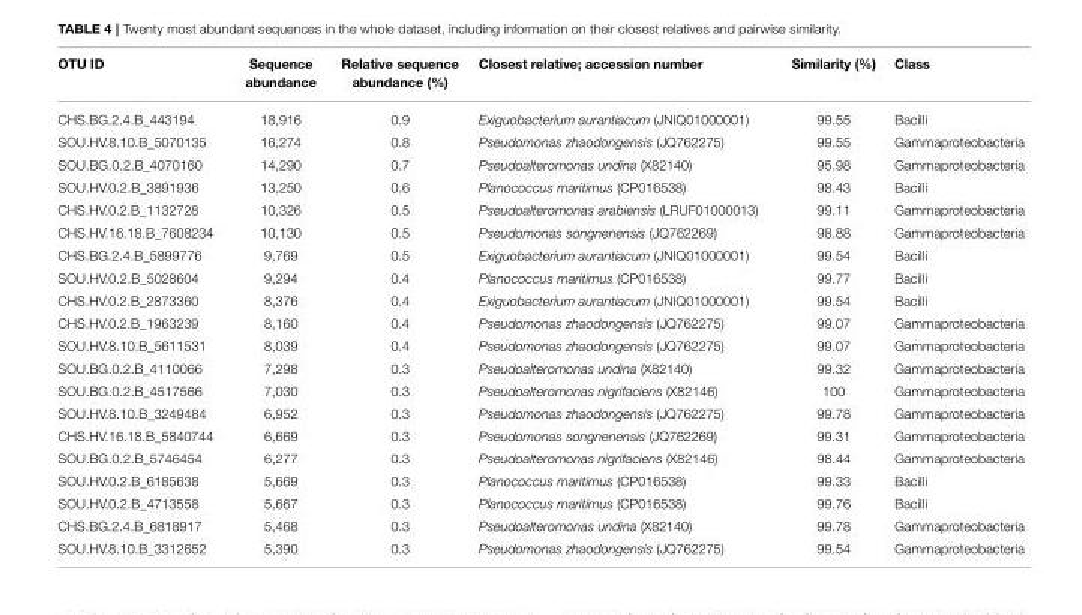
<table><thead><tr><td>OTU ID</td><td>Sequence abundance</td><td>Relative sequence abundance (%)</td><td>Closest relative; accession number</td><td>Similarity (%)</td><td>Class</td></tr></thead><tbody><tr><td>CHS.BG.2.4.B_443194</td><td>18,916</td><td>0.9</td><td>Exiguobacterium aurantiacum (JNIQ01000001)</td><td>99.55</td><td>Bacilli</td></tr><tr><td>SOU.HV.8.10.B_5070135</td><td>16,274</td><td>0.8</td><td>Pseudomonas zhaodongensis (JQ762275)</td><td>99.55</td><td>Gammaproteobacteria</td></tr><tr><td>SOU.BG.0.2.B_4070160</td><td>14,290</td><td>0.7</td><td>Pseudoalteromonas undina (X82140)</td><td>95.98</td><td>Gammaproteobacteria</td></tr><tr><td>SOU.HV.0.2.B_3891936</td><td>13,250</td><td>0.6</td><td>Planococcus maritimus (CP016538)</td><td>98.43</td><td>Bacilli</td></tr><tr><td>CHS.HV.0.2.B_1132728</td><td>10,326</td><td>0.5</td><td>Pseudoalteromonas arabiensis (LRUF01000013)</td><td>99.11</td><td>Gammaproteobacteria</td></tr><tr><td>CHS.HV.16.18.B_7608234</td><td>10,130</td><td>0.5</td><td>Pseudomonas songnenensis (JQ762269)</td><td>98.88</td><td>Gammaproteobacteria</td></tr><tr><td>CHS.BG.2.4.B_5899776</td><td>9,769</td><td>0.5</td><td>Exiguobacterium aurantiacum (JNIQ01000001)</td><td>99.54</td><td>Bacilli</td></tr><tr><td>SOU.HV.0.2.B_5028604</td><td>9,294</td><td>0.4</td><td>Planococcus maritimus (CP016538)</td><td>99.77</td><td>Bacilli</td></tr><tr><td>CHS.HV.0.2.B_2873360</td><td>8,376</td><td>0.4</td><td>Exiguobacterium aurantiacum (JNIQ01000001)</td><td>99.54</td><td>Bacilli</td></tr><tr><td>CHS.HV.0.2.B_1963239</td><td>8,160</td><td>0.4</td><td>Pseudomonas zhaodongensis (JQ762275)</td><td>99.07</td><td>Gammaproteobacteria</td></tr><tr><td>SOU.HV.8.10.B_5611531</td><td>8,039</td><td>0.4</td><td>Pseudomonas zhaodongensis (JQ762275)</td><td>99.07</td><td>Gammaproteobacteria</td></tr><tr><td>SOU.BG.0.2.B_4110066</td><td>7,298</td><td>0.3</td><td>Pseudoalteromonas undina (X82140)</td><td>99.32</td><td>Gammaproteobacteria</td></tr><tr><td>SOU.BG.0.2.B_4517566</td><td>7,030</td><td>0.3</td><td>Pseudoalteromonas nigrifaciens (X82146)</td><td>100</td><td>Gammaproteobacteria</td></tr><tr><td>SOU.HV.8.10.B_3249484</td><td>6,952</td><td>0.3</td><td>Pseudomonas zhaodongensis (JQ762275)</td><td>99.78</td><td>Gammaproteobacteria</td></tr><tr><td>CHS.HV.16.18.B_5840744</td><td>6,669</td><td>0.3</td><td>Pseudomonas songnenensis (JQ762269)</td><td>99.31</td><td>Gammaproteobacteria</td></tr><tr><td>SOU.BG.0.2.B_5746454</td><td>6,277</td><td>0.3</td><td>Pseudoalteromonas nigrifaciens (X82146)</td><td>98.44</td><td>Gammaproteobacteria</td></tr><tr><td>SOU.HV.0.2.B_6185638</td><td>5,669</td><td>0.3</td><td>Planococcus maritimus (CP016538)</td><td>99.33</td><td>Bacilli</td></tr><tr><td>SOU.HV.0.2.B_4713558</td><td>5,667</td><td>0.3</td><td>Planococcus maritimus (CP016538)</td><td>99.76</td><td>Bacilli</td></tr><tr><td>CHS.BG.2.4.B_6818917</td><td>5,468</td><td>0.3</td><td>Pseudoalteromonas undina (X82140)</td><td>99.78</td><td>Gammaproteobacteria</td></tr><tr><td>SOU.HV.8.10.B_3312652</td><td>5,390</td><td>0.3</td><td>Pseudomonas zhaodongensis (JQ762275)</td><td>99.54</td><td>Gammaproteobacteria</td></tr></tbody></table>